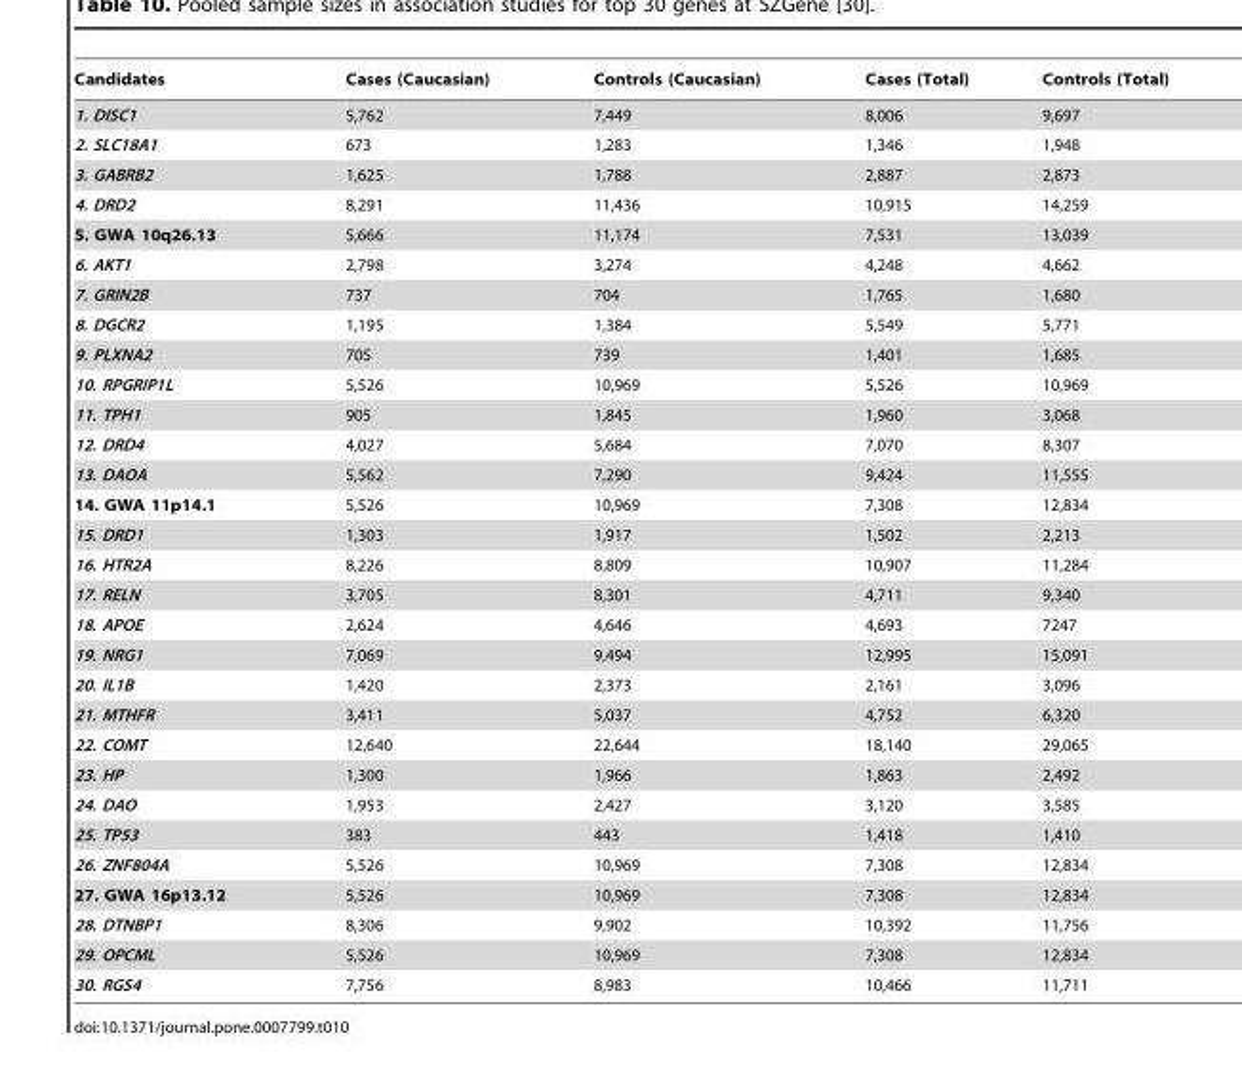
<table><thead><tr><td>Candidates</td><td>Cases (Caucasian)</td><td>Controls (Caucasian)</td><td>Cases (Total)</td><td>Controls (Total)</td></tr></thead><tbody><tr><td>1. DISC1</td><td>5,762</td><td>7,449</td><td>8,006</td><td>9,697</td></tr><tr><td>2. SLC18A1</td><td>673</td><td>1,283</td><td>1,346</td><td>1,948</td></tr><tr><td>3. GABRB2</td><td>1,625</td><td>1,788</td><td>2,887</td><td>2,873</td></tr><tr><td>4. DRD2</td><td>8,291</td><td>11,436</td><td>10,915</td><td>14,259</td></tr><tr><td>5. GWA 10q26.13</td><td>5,666</td><td>11,174</td><td>7,531</td><td>13,039</td></tr><tr><td>6. AKT1</td><td>2,798</td><td>3,274</td><td>4,248</td><td>4,662</td></tr><tr><td>7. GRIN2B</td><td>737</td><td>704</td><td>1,765</td><td>1,680</td></tr><tr><td>8. DGCR2</td><td>1,195</td><td>1,384</td><td>5,549</td><td>5,771</td></tr><tr><td>9. PLXNA2</td><td>705</td><td>739</td><td>1,401</td><td>1,685</td></tr><tr><td>10. RPGRIP1L</td><td>5,526</td><td>10,969</td><td>5,526</td><td>10,969</td></tr><tr><td>11. TPH1</td><td>905</td><td>1,845</td><td>1,960</td><td>3,068</td></tr><tr><td>12. DRD4</td><td>4,027</td><td>5,684</td><td>7,070</td><td>8,307</td></tr><tr><td>13. DAOA</td><td>5,562</td><td>7,290</td><td>9,424</td><td>11,555</td></tr><tr><td>14. GWA 11p14.1</td><td>5,526</td><td>10,969</td><td>7,308</td><td>12,834</td></tr><tr><td>15. DRD1</td><td>1,303</td><td>1,917</td><td>1,502</td><td>2,213</td></tr><tr><td>16. HTR2A</td><td>8,226</td><td>8,809</td><td>10,907</td><td>11,284</td></tr><tr><td>17. RELN</td><td>3,705</td><td>8,301</td><td>4,711</td><td>9,340</td></tr><tr><td>18. APOE</td><td>2,624</td><td>4,646</td><td>4,693</td><td>7247</td></tr><tr><td>19. NRG1</td><td>7,069</td><td>9,494</td><td>12,995</td><td>15,091</td></tr><tr><td>20. IL1B</td><td>1,420</td><td>2,373</td><td>2,161</td><td>3,096</td></tr><tr><td>21. MTHFR</td><td>3,411</td><td>5,037</td><td>4,752</td><td>6,320</td></tr><tr><td>22. COMT</td><td>12,640</td><td>22,644</td><td>18,140</td><td>29,065</td></tr><tr><td>23. HP</td><td>1,300</td><td>1,966</td><td>1,863</td><td>2,492</td></tr><tr><td>24. DAO</td><td>1,953</td><td>2,427</td><td>3,120</td><td>3,585</td></tr><tr><td>25. TP53</td><td>383</td><td>443</td><td>1,418</td><td>1,410</td></tr><tr><td>26. ZNF804A</td><td>5,526</td><td>10,969</td><td>7,308</td><td>12,834</td></tr><tr><td>27. GWA 16p13.12</td><td>5,526</td><td>10,969</td><td>7,308</td><td>12,834</td></tr><tr><td>28. DTNBP1</td><td>8,306</td><td>9,902</td><td>10,392</td><td>11,756</td></tr><tr><td>29. OPCML</td><td>5,526</td><td>10,969</td><td>7,308</td><td>12,834</td></tr><tr><td>30. RGS4</td><td>7,756</td><td>8,983</td><td>10,466</td><td>11,711</td></tr></tbody></table>